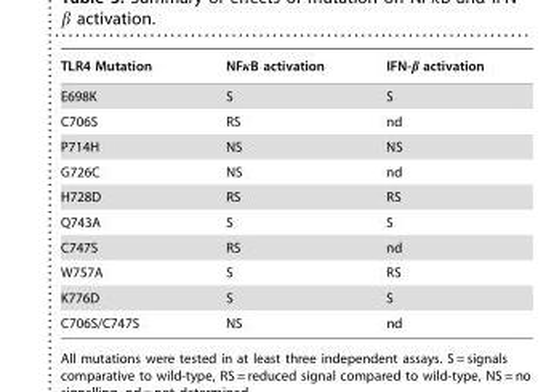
<table><thead><tr><td>TLR4 Mutation</td><td>NFκB activation</td><td>IFN-β activation</td></tr></thead><tbody><tr><td>E698K</td><td>S</td><td>S</td></tr><tr><td>C706S</td><td>RS</td><td>nd</td></tr><tr><td>P714H</td><td>NS</td><td>NS</td></tr><tr><td>G726C</td><td>NS</td><td>nd</td></tr><tr><td>H728D</td><td>RS</td><td>RS</td></tr><tr><td>Q743A</td><td>S</td><td>S</td></tr><tr><td>C747S</td><td>RS</td><td>nd</td></tr><tr><td>W757A</td><td>S</td><td>RS</td></tr><tr><td>K776D</td><td>S</td><td>S</td></tr><tr><td>C706S/C747S</td><td>NS</td><td>nd</td></tr></tbody></table>